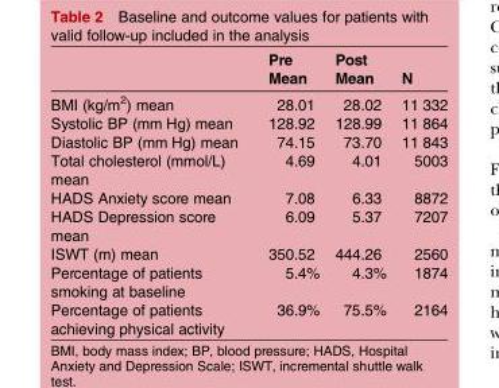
<table><thead><tr><td rowspan="2"></td><td rowspan="2">Pre Mean</td><td rowspan="2">Post Mean</td><td rowspan="2">N</td></tr><tr></tr></thead><tbody><tr><td>BMI (kg/m<sup>2</sup>) mean</td><td>28.01</td><td>28.02</td><td>11 332</td></tr><tr><td>Systolic BP (mm Hg) mean</td><td>128.92</td><td>128.99</td><td>11 864</td></tr><tr><td>Diastolic BP (mm Hg) mean</td><td>74.15</td><td>73.70</td><td>11 843</td></tr><tr><td>Total cholesterol (mmol/L) mean</td><td>4.69</td><td>4.01</td><td>5003</td></tr><tr><td>HADS Anxiety score mean</td><td>7.08</td><td>6.33</td><td>8872</td></tr><tr><td>HADS Depression score mean</td><td>6.09</td><td>5.37</td><td>7207</td></tr><tr><td>ISWT (m) mean</td><td>350.52</td><td>444.26</td><td>2560</td></tr><tr><td>Percentage of patients smoking at baseline</td><td>5.4%</td><td>4.3%</td><td>1874</td></tr><tr><td>Percentage of patients achieving physical activity</td><td>36.9%</td><td>75.5%</td><td>2164</td></tr></tbody></table>